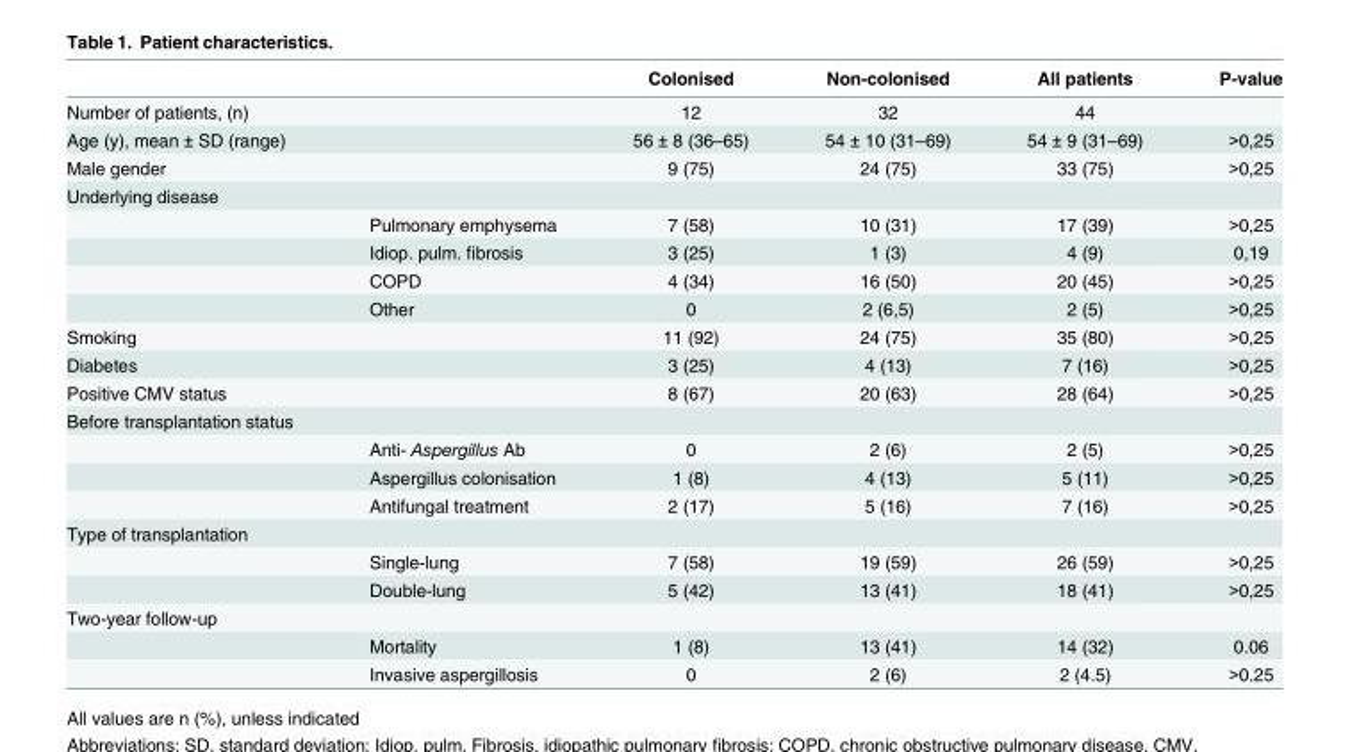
<table><thead><tr><td></td><td></td><td>Colonised</td><td>Non-colonised</td><td>All patients</td><td>P-value</td></tr></thead><tbody><tr><td>Number of patients, (n)</td><td></td><td>12</td><td>32</td><td>44</td><td></td></tr><tr><td>Age (y), mean ± SD (range)</td><td></td><td>56 ± 8 (36–65)</td><td>54 ± 10 (31–69)</td><td>54 ± 9 (31–69)</td><td>&gt;0,25</td></tr><tr><td>Male gender</td><td></td><td>9 (75)</td><td>24 (75)</td><td>33 (75)</td><td>&gt;0,25</td></tr><tr><td colspan="6">Underlying disease</td></tr><tr><td></td><td>Pulmonary emphysema</td><td>7 (58)</td><td>10 (31)</td><td>17 (39)</td><td>&gt;0,25</td></tr><tr><td></td><td>Idiop. pulm. fibrosis</td><td>3 (25)</td><td>1 (3)</td><td>4 (9)</td><td>0,19</td></tr><tr><td></td><td>COPD</td><td>4 (34)</td><td>16 (50)</td><td>20 (45)</td><td>&gt;0,25</td></tr><tr><td></td><td>Other</td><td>0</td><td>2 (6,5)</td><td>2 (5)</td><td>&gt;0,25</td></tr><tr><td>Smoking</td><td></td><td>11 (92)</td><td>24 (75)</td><td>35 (80)</td><td>&gt;0,25</td></tr><tr><td>Diabetes</td><td></td><td>3 (25)</td><td>4 (13)</td><td>7 (16)</td><td>&gt;0,25</td></tr><tr><td>Positive CMV status</td><td></td><td>8 (67)</td><td>20 (63)</td><td>28 (64)</td><td>&gt;0,25</td></tr><tr><td colspan="6">Before transplantation status</td></tr><tr><td></td><td>Anti- Aspergillus Ab</td><td>0</td><td>2 (6)</td><td>2 (5)</td><td>&gt;0,25</td></tr><tr><td></td><td>Aspergillus colonisation</td><td>1 (8)</td><td>4 (13)</td><td>5 (11)</td><td>&gt;0,25</td></tr><tr><td></td><td>Antifungal treatment</td><td>2 (17)</td><td>5 (16)</td><td>7 (16)</td><td>&gt;0,25</td></tr><tr><td colspan="6">Type of transplantation</td></tr><tr><td></td><td>Single-lung</td><td>7 (58)</td><td>19 (59)</td><td>26 (59)</td><td>&gt;0,25</td></tr><tr><td></td><td>Double-lung</td><td>5 (42)</td><td>13 (41)</td><td>18 (41)</td><td>&gt;0,25</td></tr><tr><td colspan="6">Two-year follow-up</td></tr><tr><td></td><td>Mortality</td><td>1 (8)</td><td>13 (41)</td><td>14 (32)</td><td>0.06</td></tr><tr><td></td><td>Invasive aspergillosis</td><td>0</td><td>2 (6)</td><td>2 (4.5)</td><td>&gt;0.25</td></tr></tbody></table>